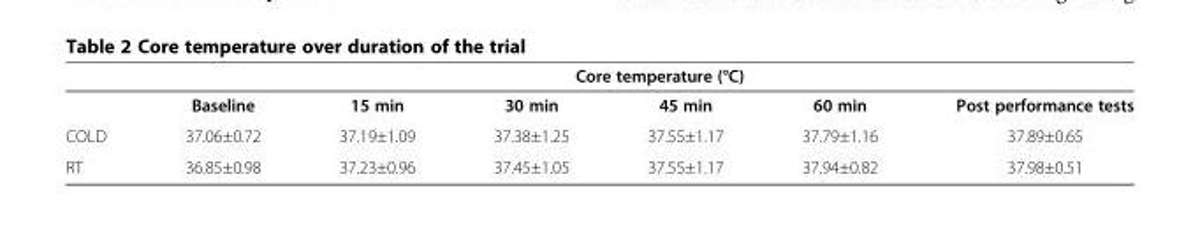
<table><thead><tr><td rowspan="2"></td><td colspan="6">Core temperature (°C)</td></tr><tr><td>Baseline</td><td>15 min</td><td>30 min</td><td>45 min</td><td>60 min</td><td>Post performance tests</td></tr></thead><tbody><tr><td>COLD</td><td>37.06±0.72</td><td>37.19±1.09</td><td>37.38±1.25</td><td>37.55±1.17</td><td>37.79±1.16</td><td>37.89±0.65</td></tr><tr><td>RT</td><td>36.85±0.98</td><td>37.23±0.96</td><td>37.45±1.05</td><td>37.55±1.17</td><td>37.94±0.82</td><td>37.98±0.51</td></tr></tbody></table>